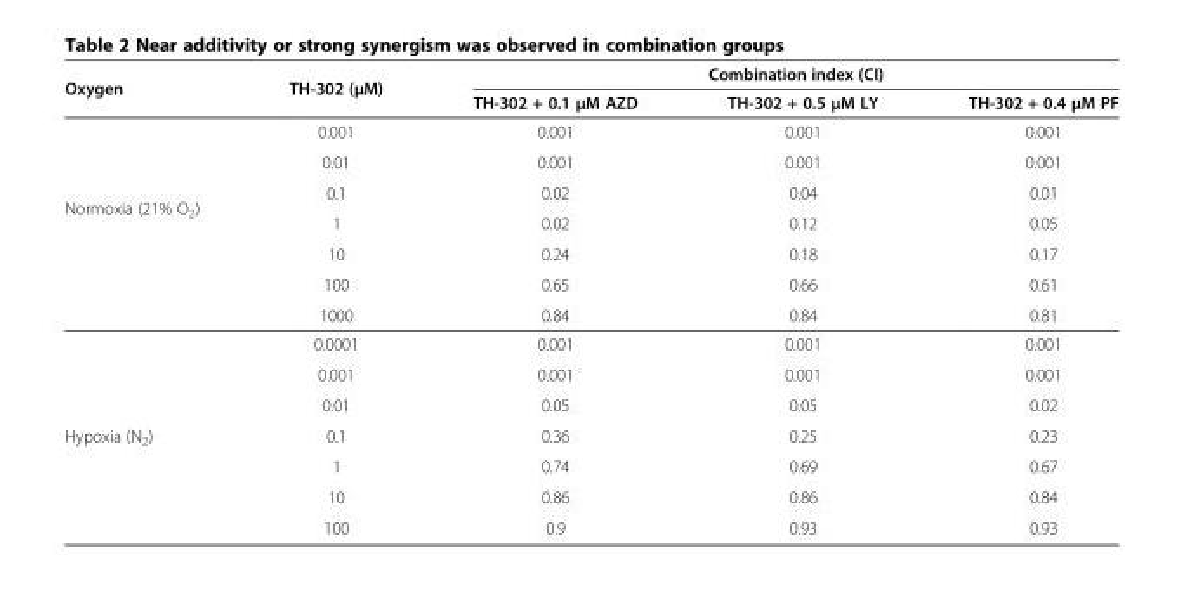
<table><thead><tr><td rowspan="2">Oxygen</td><td rowspan="2">TH-302 (μM)</td><td colspan="3">Combination index (CI)</td></tr><tr><td>TH-302 + 0.1 μM AZD</td><td>TH-302 + 0.5 μM LY</td><td>TH-302 + 0.4 μM PF</td></tr></thead><tbody><tr><td rowspan="7">Normoxia (21% O<sub>2</sub>)</td><td>0.001</td><td>0.001</td><td>0.001</td><td>0.001</td></tr><tr><td>0.01</td><td>0.001</td><td>0.001</td><td>0.001</td></tr><tr><td>0.1</td><td>0.02</td><td>0.04</td><td>0.01</td></tr><tr><td>1</td><td>0.02</td><td>0.12</td><td>0.05</td></tr><tr><td>10</td><td>0.24</td><td>0.18</td><td>0.17</td></tr><tr><td>100</td><td>0.65</td><td>0.66</td><td>0.61</td></tr><tr><td>1000</td><td>0.84</td><td>0.84</td><td>0.81</td></tr><tr><td rowspan="7">Hypoxia (N<sub>2</sub>)</td><td>0.0001</td><td>0.001</td><td>0.001</td><td>0.001</td></tr><tr><td>0.001</td><td>0.001</td><td>0.001</td><td>0.001</td></tr><tr><td>0.01</td><td>0.05</td><td>0.05</td><td>0.02</td></tr><tr><td>0.1</td><td>0.36</td><td>0.25</td><td>0.23</td></tr><tr><td>1</td><td>0.74</td><td>0.69</td><td>0.67</td></tr><tr><td>10</td><td>0.86</td><td>0.86</td><td>0.84</td></tr><tr><td>100</td><td>0.9</td><td>0.93</td><td>0.93</td></tr></tbody></table>